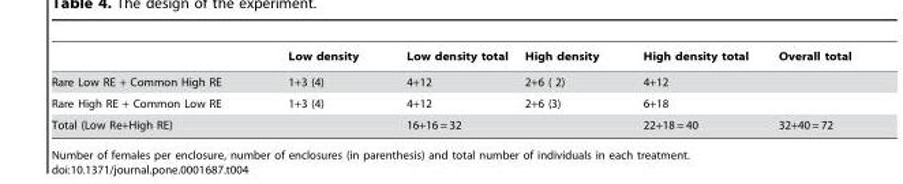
<table><thead><tr><td></td><td>Low density</td><td>Low density total</td><td>High density</td><td>High density total</td><td>Overall total</td></tr></thead><tbody><tr><td>Rare Low RE + Common High RE</td><td>1+3 (4)</td><td>4+12</td><td>2+6 ( 2)</td><td>4+12</td><td></td></tr><tr><td>Rare High RE + Common Low RE</td><td>1+3 (4)</td><td>4+12</td><td>2+6 (3)</td><td>6+18</td><td></td></tr><tr><td>Total (Low Re+High RE)</td><td></td><td>16+16 = 32</td><td></td><td>22+18 = 40</td><td>32+40 = 72</td></tr></tbody></table>